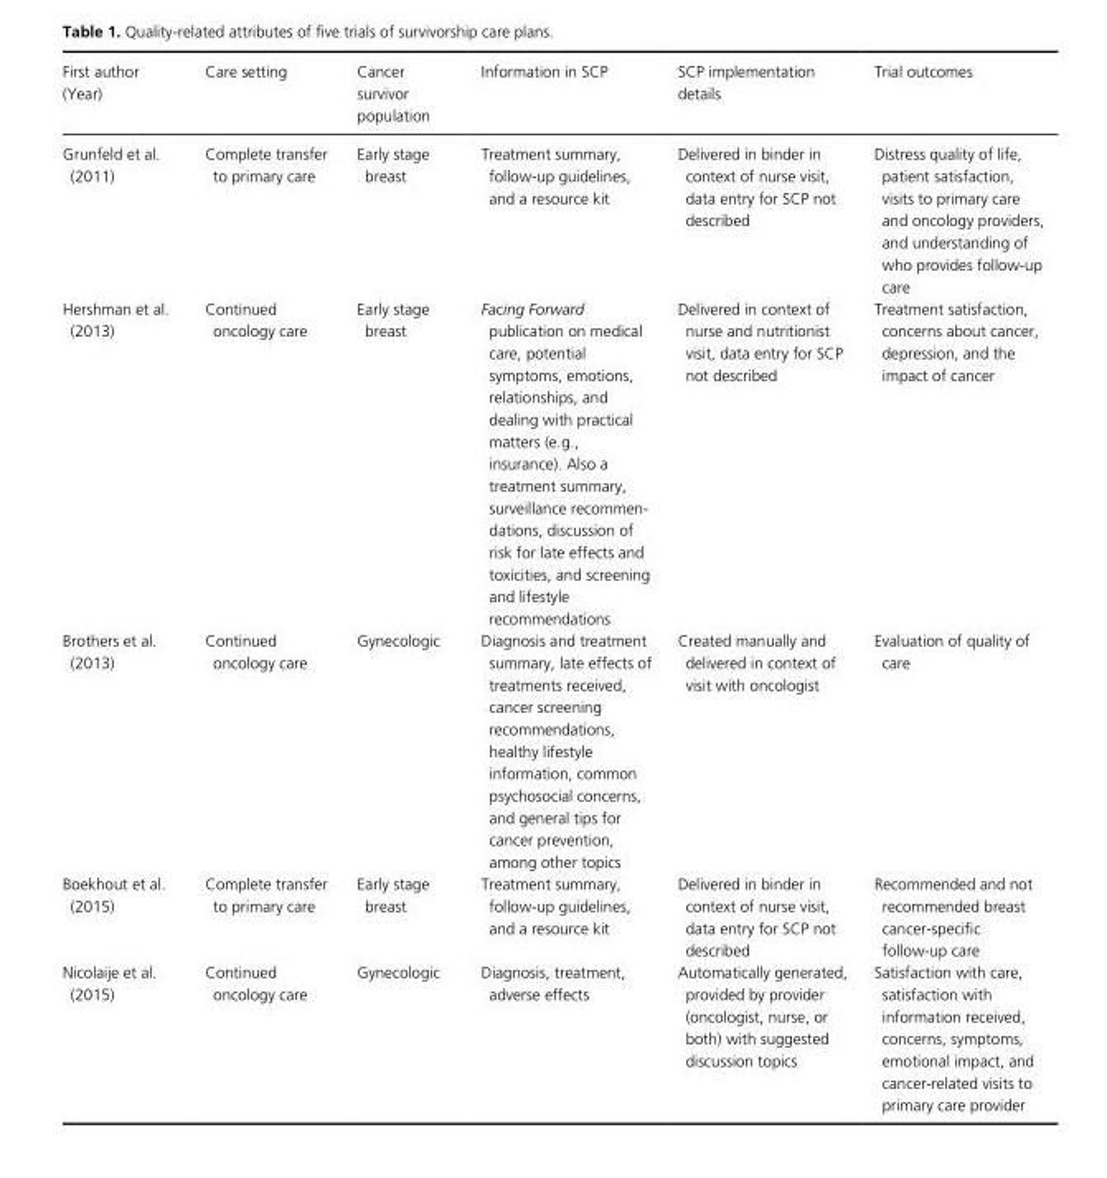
<table><thead><tr><td>First author (Year)</td><td>Care setting</td><td>Cancer survivor population</td><td>Information in SCP</td><td>SCP implementation details</td><td>Trial outcomes</td></tr></thead><tbody><tr><td>Grunfeld et al. (2011)</td><td>Complete transfer to primary care</td><td>Early stage breast</td><td>Treatment summary, follow- up guidelines, and a resource kit</td><td>Delivered in binder in context of nurse visit, data entry for SCP not described</td><td>Distress quality of life, patient satisfaction, visits to primary care and oncology providers, and understanding of who provides follow- up care</td></tr><tr><td>Hershman et al. (2013)</td><td>Continued oncology care</td><td>Early stage breast</td><td>Facing Forward publication on medical care, potential symptoms, emotions, relationships, and dealing with practical matters (e.g., insurance). Also a treatment summary, surveillance recommen- dations, discussion of risk for late effects and toxicities, and screening and lifestyle recommendations</td><td>Delivered in context of nurse and nutritionist visit, data entry for SCP not described</td><td>Treatment satisfaction, concerns about cancer, depression, and the impact of cancer</td></tr><tr><td>Brothers et al. (2013)</td><td>Continued oncology care</td><td>Gynecologic</td><td>Diagnosis and treatment summary, late effects of treatments received, cancer screening recommendations, healthy lifestyle information, common psychosocial concerns, and general tips for cancer prevention, among other topics</td><td>Created manually and delivered in context of visit with oncologist</td><td>Evaluation of quality of care</td></tr><tr><td>Boekhout et al. (2015)</td><td>Complete transfer to primary care</td><td>Early stage breast</td><td>Treatment summary, follow- up guidelines, and a resource kit</td><td>Delivered in binder in context of nurse visit, data entry for SCP not described</td><td>Recommended and not recommended breast cancer- specific follow- up care</td></tr><tr><td>Nicolaije et al. (2015)</td><td>Continued oncology care</td><td>Gynecologic</td><td>Diagnosis, treatment, adverse effects</td><td>Automatically generated, provided by provider (oncologist, nurse, or both) with suggested discussion topics</td><td>Satisfaction with care, satisfaction with information received, concerns, symptoms, emotional impact, and cancer- related visits to primary care provider</td></tr></tbody></table>